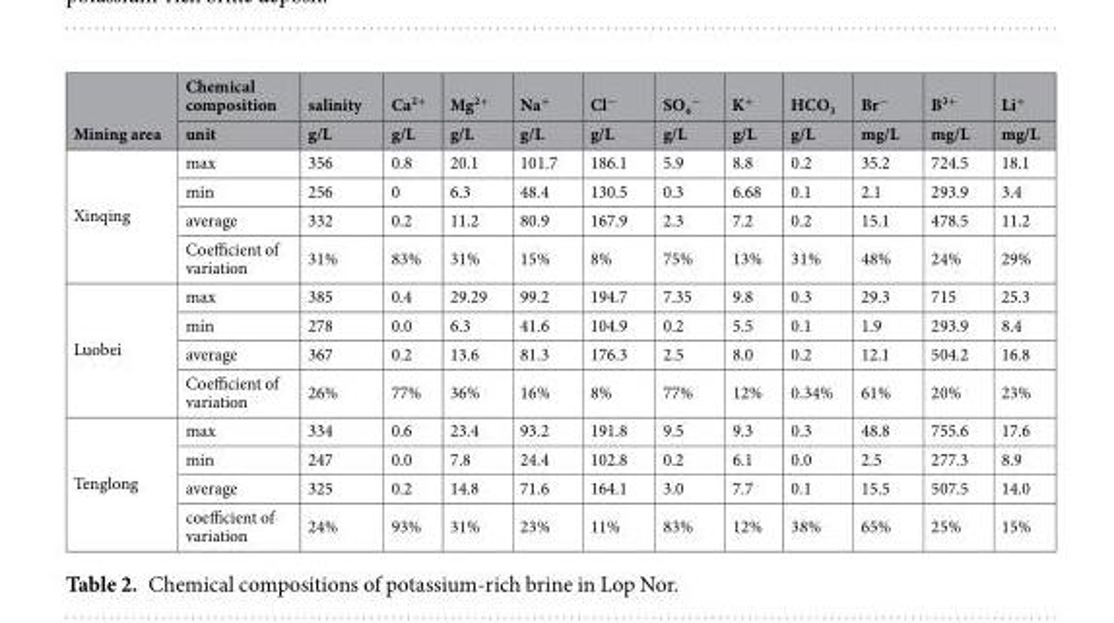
<table><thead><tr><td rowspan="2">Mining area</td><td rowspan="2">Chemical composition unit</td><td rowspan="2">salinity g/L</td><td rowspan="2">Ca<sup>2+</sup> g/L</td><td rowspan="2">Mg<sup>2+</sup> g/L</td><td rowspan="2">Na<sup>+</sup> g/L</td><td rowspan="2">Cl<sup>−</sup> g/L</td><td rowspan="2">SO<sub>4</sub> <sup>−</sup> g/L</td><td rowspan="2">K<sup>+</sup> g/L</td><td rowspan="2">HCO<sub>3</sub> g/L</td><td rowspan="2">Br<sup>−</sup> mg/L</td><td rowspan="2">B<sup>3+</sup> mg/L</td><td rowspan="2">Li<sup>+</sup> mg/L</td></tr><tr></tr></thead><tbody><tr><td rowspan="4">Xinqing</td><td>max</td><td>356</td><td>0.8</td><td>20.1</td><td>101.7</td><td>186.1</td><td>5.9</td><td>8.8</td><td>0.2</td><td>35.2</td><td>724.5</td><td>18.1</td></tr><tr><td>min</td><td>256</td><td>0</td><td>6.3</td><td>48.4</td><td>130.5</td><td>0.3</td><td>6.68</td><td>0.1</td><td>2.1</td><td>293.9</td><td>3.4</td></tr><tr><td>average</td><td>332</td><td>0.2</td><td>11.2</td><td>80.9</td><td>167.9</td><td>2.3</td><td>7.2</td><td>0.2</td><td>15.1</td><td>478.5</td><td>11.2</td></tr><tr><td>Coefficient of variation</td><td>31%</td><td>83%</td><td>31%</td><td>15%</td><td>8%</td><td>75%</td><td>13%</td><td>31%</td><td>48%</td><td>24%</td><td>29%</td></tr><tr><td rowspan="4">Luobei</td><td>max</td><td>385</td><td>0.4</td><td>29.29</td><td>99.2</td><td>194.7</td><td>7.35</td><td>9.8</td><td>0.3</td><td>29.3</td><td>715</td><td>25.3</td></tr><tr><td>min</td><td>278</td><td>0.0</td><td>6.3</td><td>41.6</td><td>104.9</td><td>0.2</td><td>5.5</td><td>0.1</td><td>1.9</td><td>293.9</td><td>8.4</td></tr><tr><td>average</td><td>367</td><td>0.2</td><td>13.6</td><td>81.3</td><td>176.3</td><td>2.5</td><td>8.0</td><td>0.2</td><td>12.1</td><td>504.2</td><td>16.8</td></tr><tr><td>Coefficient of variation</td><td>26%</td><td>77%</td><td>36%</td><td>16%</td><td>8%</td><td>77%</td><td>12%</td><td>0.34%</td><td>61%</td><td>20%</td><td>23%</td></tr><tr><td rowspan="4">Tenglong</td><td>max</td><td>334</td><td>0.6</td><td>23.4</td><td>93.2</td><td>191.8</td><td>9.5</td><td>9.3</td><td>0.3</td><td>48.8</td><td>755.6</td><td>17.6</td></tr><tr><td>min</td><td>247</td><td>0.0</td><td>7.8</td><td>24.4</td><td>102.8</td><td>0.2</td><td>6.1</td><td>0.0</td><td>2.5</td><td>277.3</td><td>8.9</td></tr><tr><td>average</td><td>325</td><td>0.2</td><td>14.8</td><td>71.6</td><td>164.1</td><td>3.0</td><td>7.7</td><td>0.1</td><td>15.5</td><td>507.5</td><td>14.0</td></tr><tr><td>coefficient of variation</td><td>24%</td><td>93%</td><td>31%</td><td>23%</td><td>11%</td><td>83%</td><td>12%</td><td>38%</td><td>65%</td><td>25%</td><td>15%</td></tr></tbody></table>